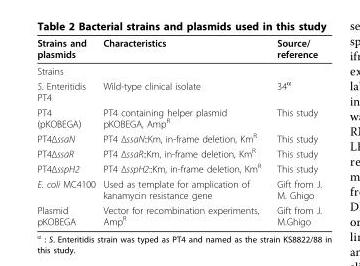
<table><thead><tr><td>Strains and plasmids</td><td>Characteristics</td><td>Source/ reference</td></tr></thead><tbody><tr><td colspan="3">Strains</td></tr><tr><td>S. Enteritidis PT4</td><td>Wild-type clinical isolate</td><td>34<sup>α</sup></td></tr><tr><td>PT4 (pKOBEGA)</td><td>PT4 containing helper plasmid pKOBEGA, Amp<sup>R</sup></td><td>This study</td></tr><tr><td>PT4ΔssaN</td><td>PT4 ΔssaN::Km, in-frame deletion, Km<sup>R</sup></td><td>This study</td></tr><tr><td>PT4ΔssaR</td><td>PT4 ΔssaR::Km, in-frame deletion, Km<sup>R</sup></td><td>This study</td></tr><tr><td>PT4ΔsspH2</td><td>PT4 ΔsspH2::Km, in-frame deletion, Km<sup>R</sup></td><td>This study</td></tr><tr><td>E. coli MC4100</td><td>Used as template for amplication of kanamycin resistance gene</td><td>Gift from J. M. Ghigo</td></tr><tr><td>Plasmid pKOBEGA</td><td>Vector for recombination experiments, Amp<sup>R</sup></td><td>Gift from J. M.Ghigo</td></tr></tbody></table>